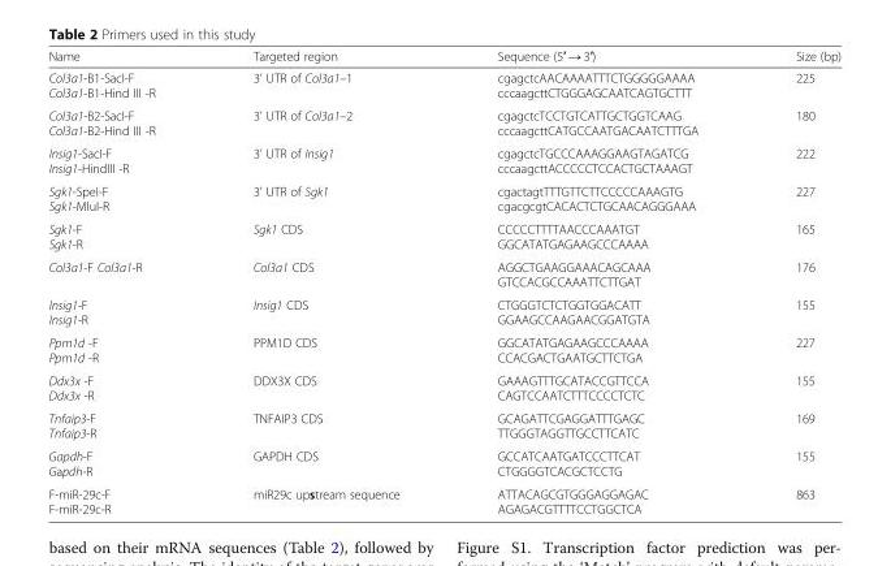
<table><thead><tr><td>Name</td><td>Targeted region</td><td>Sequence (5′ → 3′)</td><td>Size (bp)</td></tr></thead><tbody><tr><td>Col3a1-B1-SacI-F Col3a1-B1-Hind III -R</td><td>3’ UTR of Col3a1–1</td><td>cgagctcAACAAAATTTCTGGGGGAAAA cccaagcttCTGGGAGCAATCAGTGCTTT</td><td>225</td></tr><tr><td>Col3a1-B2-SacI-F Col3a1-B2-Hind III -R</td><td>3’ UTR of Col3a1–2</td><td>cgagctcTCCTGTCATTGCTGGTCAAG cccaagcttCATGCCAATGACAATCTTTGA</td><td>180</td></tr><tr><td>Insig1-SacI-F Insig1-HindIII -R</td><td>3’ UTR of Insig1</td><td>cgagctcTGCCCAAAGGAAGTAGATCG cccaagcttACCCCCTCCACTGCTAAAGT</td><td>222</td></tr><tr><td>Sgk1-SpeI-F Sgk1-MluI-R</td><td>3’ UTR of Sgk1</td><td>cgactagtTTTGTTCTTCCCCCAAAGTG cgacgcgtCACACTCTGCAACAGGGAAA</td><td>227</td></tr><tr><td>Sgk1-F Sgk1-R</td><td>Sgk1 CDS</td><td>CCCCCTTTTAACCCAAATGT GGCATATGAGAAGCCCAAAA</td><td>165</td></tr><tr><td>Col3a1-F Col3a1-R</td><td>Col3a1 CDS</td><td>AGGCTGAAGGAAACAGCAAA GTCCACGCCAAATTCTTGAT</td><td>176</td></tr><tr><td>Insig1-F Insig1-R</td><td>Insig1 CDS</td><td>CTGGGTCTCTGGTGGACATT GGAAGCCAAGAACGGATGTA</td><td>155</td></tr><tr><td>Ppm1d -F Ppm1d -R</td><td>PPM1D CDS</td><td>GGCATATGAGAAGCCCAAAA CCACGACTGAATGCTTCTGA</td><td>227</td></tr><tr><td>Ddx3x -F Ddx3x -R</td><td>DDX3X CDS</td><td>GAAAGTTTGCATACCGTTCCA CAGTCCAATCTTTCCCCTCTC</td><td>155</td></tr><tr><td>Tnfaip3-F Tnfaip3-R</td><td>TNFAIP3 CDS</td><td>GCAGATTCGAGGATTTGAGC TTGGGTAGGTTGCCTTCATC</td><td>169</td></tr><tr><td>Gapdh-F Gapdh-R</td><td>GAPDH CDS</td><td>GCCATCAATGATCCCTTCAT CTGGGGTCACGCTCCTG</td><td>155</td></tr><tr><td>F-miR-29c-F F-miR-29c-R</td><td>miR29c upstream sequence</td><td>ATTACAGCGTGGGAGGAGAC AGAGACGTTTTCCTGGCTCA</td><td>863</td></tr></tbody></table>